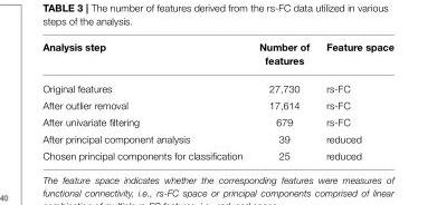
<table><thead><tr><td>Analysis step</td><td>Number of features</td><td>Feature space</td></tr></thead><tbody><tr><td>Original features</td><td>27,730</td><td>rs-FC</td></tr><tr><td>After outlier removal</td><td>17,614</td><td>rs-FC</td></tr><tr><td>After univariate filtering</td><td>679</td><td>rs-FC</td></tr><tr><td>After principal component analysis</td><td>39</td><td>reduced</td></tr><tr><td>Chosen principal components for classification</td><td>25</td><td>reduced</td></tr></tbody></table>